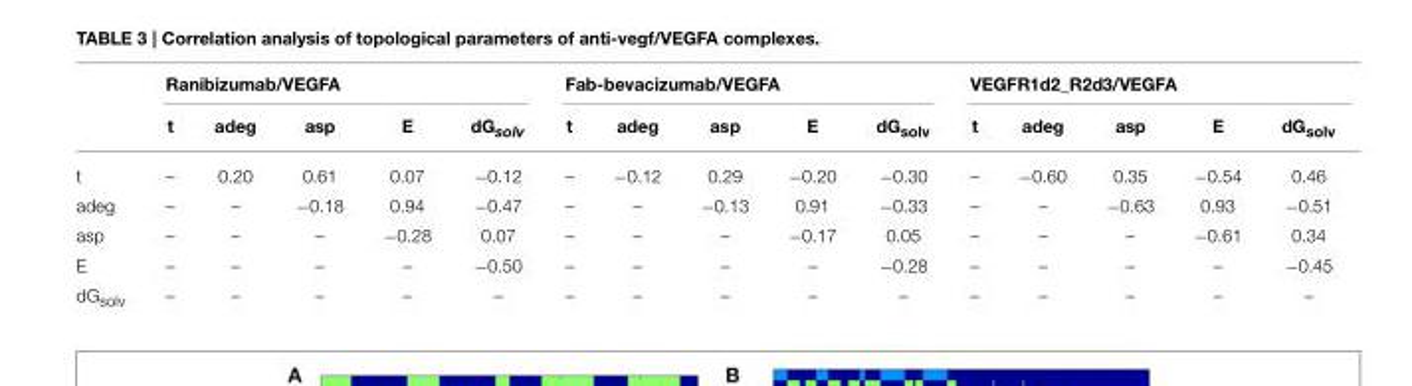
<table><thead><tr><td rowspan="2"></td><td colspan="5">Ranibizumab/VEGFA</td><td colspan="5">Fab-bevacizumab/VEGFA</td><td colspan="5">VEGFR1d2_R2d3/VEGFA</td></tr><tr><td>t</td><td>adeg</td><td>asp</td><td>E</td><td>dG<sub>solv</sub></td><td>t</td><td>adeg</td><td>asp</td><td>E</td><td>dG<sub>solv</sub></td><td>t</td><td>adeg</td><td>asp</td><td>E</td><td>dG<sub>solv</sub></td></tr></thead><tbody><tr><td>t</td><td>–</td><td>0.20</td><td>0.61</td><td>0.07</td><td>−0.12</td><td>–</td><td>−0.12</td><td>0.29</td><td>−0.20</td><td>−0.30</td><td>–</td><td>−0.60</td><td>0.35</td><td>−0.54</td><td>0.46</td></tr><tr><td>adeg</td><td>–</td><td>–</td><td>−0.18</td><td>0.94</td><td>−0.47</td><td>–</td><td>–</td><td>−0.13</td><td>0.91</td><td>−0.33</td><td>–</td><td>–</td><td>−0.63</td><td>0.93</td><td>−0.51</td></tr><tr><td>asp</td><td>–</td><td>–</td><td>–</td><td>−0.28</td><td>0.07</td><td>–</td><td>–</td><td>–</td><td>−0.17</td><td>0.05</td><td>–</td><td>–</td><td>–</td><td>−0.61</td><td>0.34</td></tr><tr><td>E</td><td>–</td><td>–</td><td>–</td><td>–</td><td>−0.50</td><td>–</td><td>–</td><td>–</td><td>–</td><td>−0.28</td><td>–</td><td>–</td><td>–</td><td>–</td><td>−0.45</td></tr><tr><td>dG<sub>solv</sub></td><td>–</td><td>–</td><td>–</td><td>–</td><td>–</td><td>–</td><td>–</td><td>–</td><td>–</td><td>–</td><td>–</td><td>–</td><td>–</td><td>–</td><td>–</td></tr></tbody></table>